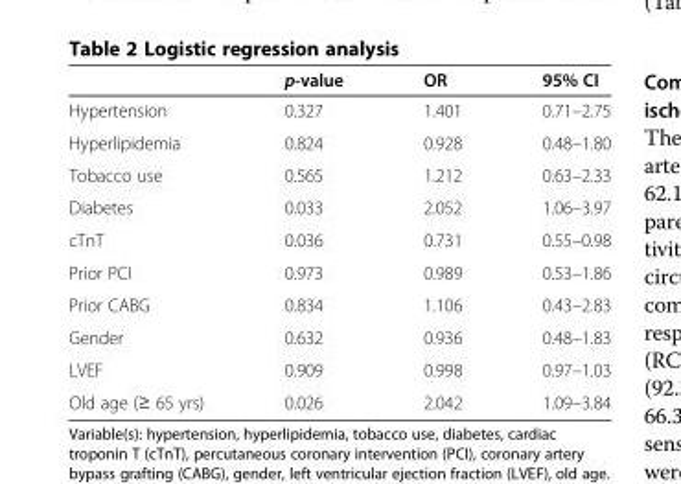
<table><thead><tr><td></td><td>p-value</td><td>OR</td><td>95% CI</td></tr></thead><tbody><tr><td>Hypertension</td><td>0.327</td><td>1.401</td><td>0.71–2.75</td></tr><tr><td>Hyperlipidemia</td><td>0.824</td><td>0.928</td><td>0.48–1.80</td></tr><tr><td>Tobacco use</td><td>0.565</td><td>1.212</td><td>0.63–2.33</td></tr><tr><td>Diabetes</td><td>0.033</td><td>2.052</td><td>1.06–3.97</td></tr><tr><td>cTnT</td><td>0.036</td><td>0.731</td><td>0.55–0.98</td></tr><tr><td>Prior PCI</td><td>0.973</td><td>0.989</td><td>0.53–1.86</td></tr><tr><td>Prior CABG</td><td>0.834</td><td>1.106</td><td>0.43–2.83</td></tr><tr><td>Gender</td><td>0.632</td><td>0.936</td><td>0.48–1.83</td></tr><tr><td>LVEF</td><td>0.909</td><td>0.998</td><td>0.97–1.03</td></tr><tr><td>Old age (≥ 65 yrs)</td><td>0.026</td><td>2.042</td><td>1.09–3.84</td></tr></tbody></table>